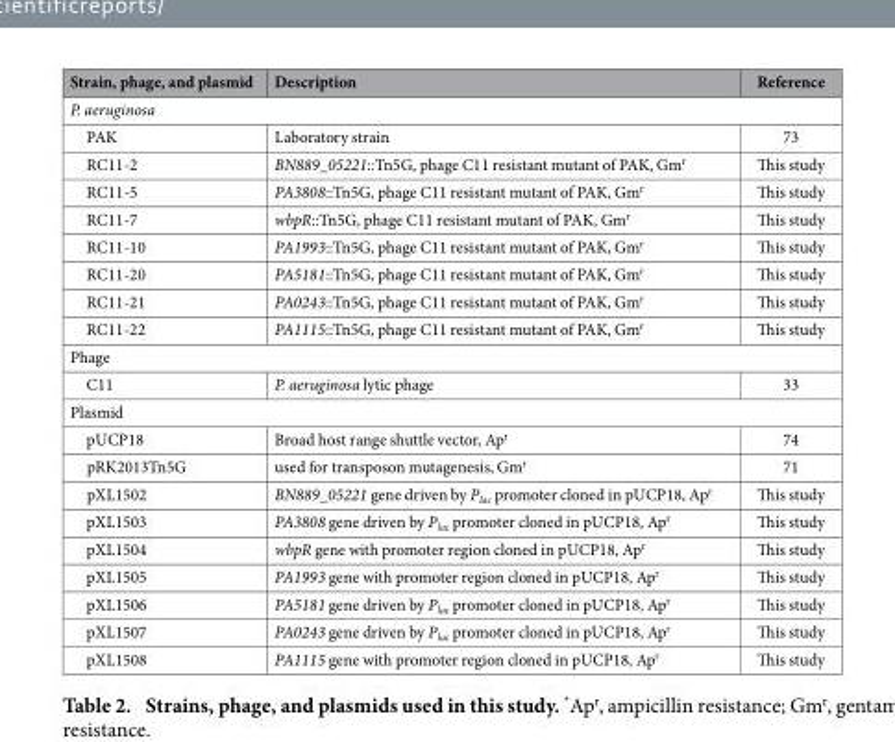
<table><thead><tr><td>Strain, phage, and plasmid</td><td>Description</td><td>Reference</td></tr></thead><tbody><tr><td colspan="3">P. aeruginosa</td></tr><tr><td>PAK</td><td>Laboratory strain</td><td>73</td></tr><tr><td>RC11-2</td><td>BN889_05221::Tn5G, phage C11 resistant mutant of PAK, Gm<sup>r</sup></td><td>This study</td></tr><tr><td>RC11-5</td><td>PA3808::Tn5G, phage C11 resistant mutant of PAK, Gm<sup>r</sup></td><td>This study</td></tr><tr><td>RC11-7</td><td>wbpR::Tn5G, phage C11 resistant mutant of PAK, Gm<sup>r</sup></td><td>This study</td></tr><tr><td>RC11-10</td><td>PA1993::Tn5G, phage C11 resistant mutant of PAK, Gm<sup>r</sup></td><td>This study</td></tr><tr><td>RC11-20</td><td>PA5181::Tn5G, phage C11 resistant mutant of PAK, Gm<sup>r</sup></td><td>This study</td></tr><tr><td>RC11-21</td><td>PA0243::Tn5G, phage C11 resistant mutant of PAK, Gm<sup>r</sup></td><td>This study</td></tr><tr><td>RC11-22</td><td>PA1115::Tn5G, phage C11 resistant mutant of PAK, Gm<sup>r</sup></td><td>This study</td></tr><tr><td colspan="3">Phage</td></tr><tr><td>C11</td><td>P. aeruginosa lytic phage</td><td>33</td></tr><tr><td colspan="3">Plasmid</td></tr><tr><td>pUCP18</td><td>Broad host range shuttle vector, Ap<sup>r</sup></td><td>74</td></tr><tr><td>pRK2013Tn5G</td><td>used for transposon mutagenesis, Gm<sup>r</sup></td><td>71</td></tr><tr><td>pXL1502</td><td>BN889_05221 gene driven by P<sub>lac</sub> promoter cloned in pUCP18, Ap<sup>r</sup></td><td>This study</td></tr><tr><td>pXL1503</td><td>PA3808 gene driven by P<sub>lac</sub> promoter cloned in pUCP18, Ap<sup>r</sup></td><td>This study</td></tr><tr><td>pXL1504</td><td>wbpR gene with promoter region cloned in pUCP18, Ap<sup>r</sup></td><td>This study</td></tr><tr><td>pXL1505</td><td>PA1993 gene with promoter region cloned in pUCP18, Ap<sup>r</sup></td><td>This study</td></tr><tr><td>pXL1506</td><td>PA5181 gene driven by P<sub>lac</sub> promoter cloned in pUCP18, Ap<sup>r</sup></td><td>This study</td></tr><tr><td>pXL1507</td><td>PA0243 gene driven by P<sub>lac</sub> promoter cloned in pUCP18, Ap<sup>r</sup></td><td>This study</td></tr><tr><td>pXL1508</td><td>PA1115 gene with promoter region cloned in pUCP18, Ap<sup>r</sup></td><td>This study</td></tr></tbody></table>